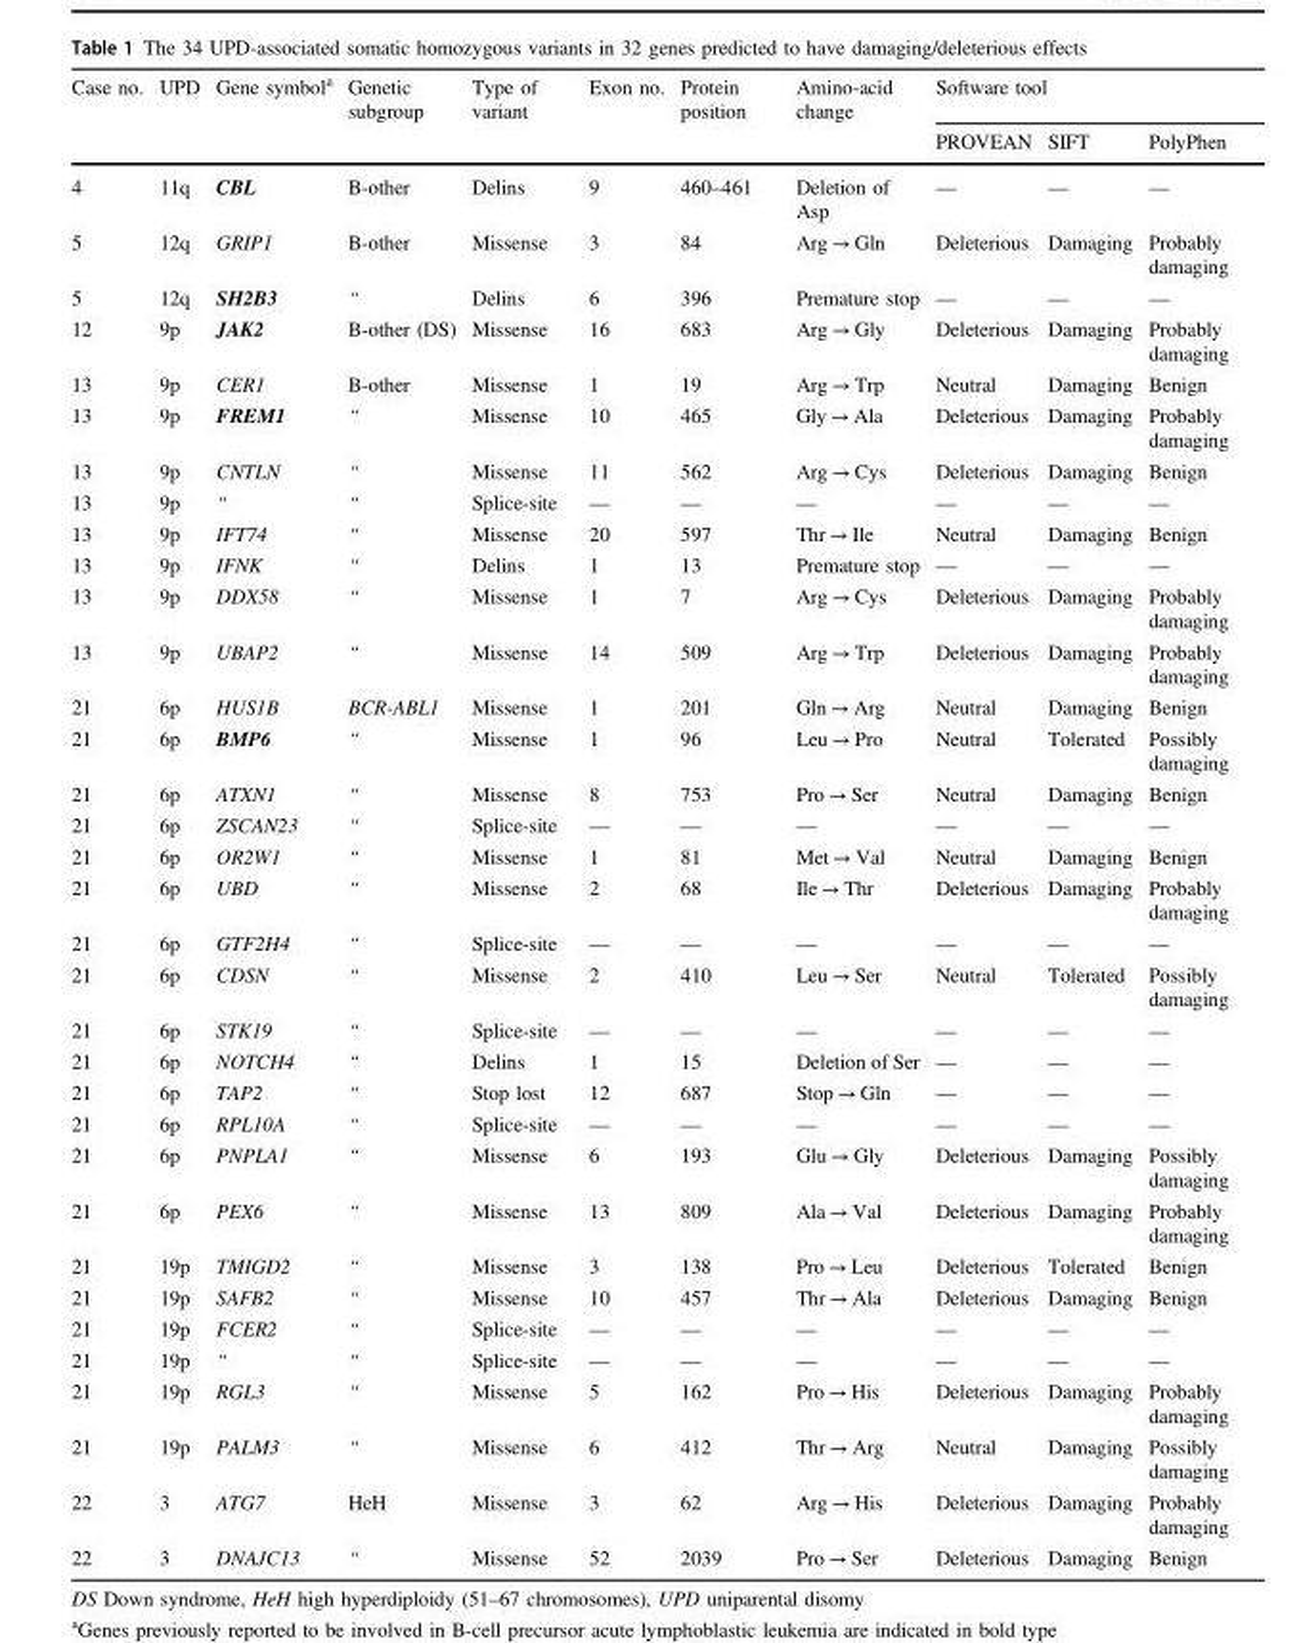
<table><thead><tr><td rowspan="2">Case no.</td><td rowspan="2">UPD</td><td rowspan="2">Gene symbol<sup>a</sup></td><td rowspan="2">Genetic subgroup</td><td rowspan="2">Type of variant</td><td rowspan="2">Exon no.</td><td rowspan="2">Protein position</td><td rowspan="2">Amino-acid change</td><td colspan="3">Software tool</td></tr><tr><td>PROVEAN</td><td>SIFT</td><td>PolyPhen</td></tr></thead><tbody><tr><td>4</td><td>11q</td><td>CBL</td><td>B-other</td><td>Delins</td><td>9</td><td>460–461</td><td>Deletion of Asp</td><td>—</td><td>—</td><td>—</td></tr><tr><td>5</td><td>12q</td><td>GRIP1</td><td>B-other</td><td>Missense</td><td>3</td><td>84</td><td>Arg → Gln</td><td>Deleterious</td><td>Damaging</td><td>Probably damaging</td></tr><tr><td>5</td><td>12q</td><td>SH2B3</td><td>“</td><td>Delins</td><td>6</td><td>396</td><td>Premature stop</td><td>—</td><td>—</td><td>—</td></tr><tr><td>12</td><td>9p</td><td>JAK2</td><td>B-other (DS)</td><td>Missense</td><td>16</td><td>683</td><td>Arg → Gly</td><td>Deleterious</td><td>Damaging</td><td>Probably damaging</td></tr><tr><td>13</td><td>9p</td><td>CER1</td><td>B-other</td><td>Missense</td><td>1</td><td>19</td><td>Arg → Trp</td><td>Neutral</td><td>Damaging</td><td>Benign</td></tr><tr><td>13</td><td>9p</td><td>FREM1</td><td>“</td><td>Missense</td><td>10</td><td>465</td><td>Gly → Ala</td><td>Deleterious</td><td>Damaging</td><td>Probably damaging</td></tr><tr><td>13</td><td>9p</td><td>CNTLN</td><td>“</td><td>Missense</td><td>11</td><td>562</td><td>Arg → Cys</td><td>Deleterious</td><td>Damaging</td><td>Benign</td></tr><tr><td>13</td><td>9p</td><td>“</td><td>“</td><td>Splice-site</td><td>—</td><td>—</td><td>—</td><td>—</td><td>—</td><td>—</td></tr><tr><td>13</td><td>9p</td><td>IFT74</td><td>“</td><td>Missense</td><td>20</td><td>597</td><td>Thr → Ile</td><td>Neutral</td><td>Damaging</td><td>Benign</td></tr><tr><td>13</td><td>9p</td><td>IFNK</td><td>“</td><td>Delins</td><td>1</td><td>13</td><td>Premature stop</td><td>—</td><td>—</td><td>—</td></tr><tr><td>13</td><td>9p</td><td>DDX58</td><td>“</td><td>Missense</td><td>1</td><td>7</td><td>Arg → Cys</td><td>Deleterious</td><td>Damaging</td><td>Probably damaging</td></tr><tr><td>13</td><td>9p</td><td>UBAP2</td><td>“</td><td>Missense</td><td>14</td><td>509</td><td>Arg → Trp</td><td>Deleterious</td><td>Damaging</td><td>Probably damaging</td></tr><tr><td>21</td><td>6p</td><td>HUS1B</td><td>BCR-ABL1</td><td>Missense</td><td>1</td><td>201</td><td>Gln → Arg</td><td>Neutral</td><td>Damaging</td><td>Benign</td></tr><tr><td>21</td><td>6p</td><td>BMP6</td><td>“</td><td>Missense</td><td>1</td><td>96</td><td>Leu → Pro</td><td>Neutral</td><td>Tolerated</td><td>Possibly damaging</td></tr><tr><td>21</td><td>6p</td><td>ATXN1</td><td>“</td><td>Missense</td><td>8</td><td>753</td><td>Pro → Ser</td><td>Neutral</td><td>Damaging</td><td>Benign</td></tr><tr><td>21</td><td>6p</td><td>ZSCAN23</td><td>“</td><td>Splice-site</td><td>—</td><td>—</td><td>—</td><td>—</td><td>—</td><td>—</td></tr><tr><td>21</td><td>6p</td><td>OR2W1</td><td>“</td><td>Missense</td><td>1</td><td>81</td><td>Met → Val</td><td>Neutral</td><td>Damaging</td><td>Benign</td></tr><tr><td>21</td><td>6p</td><td>UBD</td><td>“</td><td>Missense</td><td>2</td><td>68</td><td>Ile → Thr</td><td>Deleterious</td><td>Damaging</td><td>Probably damaging</td></tr><tr><td>21</td><td>6p</td><td>GTF2H4</td><td>“</td><td>Splice-site</td><td>—</td><td>—</td><td>—</td><td>—</td><td>—</td><td>—</td></tr><tr><td>21</td><td>6p</td><td>CDSN</td><td>“</td><td>Missense</td><td>2</td><td>410</td><td>Leu → Ser</td><td>Neutral</td><td>Tolerated</td><td>Possibly damaging</td></tr><tr><td>21</td><td>6p</td><td>STK19</td><td>“</td><td>Splice-site</td><td>—</td><td>—</td><td>—</td><td>—</td><td>—</td><td>—</td></tr><tr><td>21</td><td>6p</td><td>NOTCH4</td><td>“</td><td>Delins</td><td>1</td><td>15</td><td>Deletion of Ser</td><td>—</td><td>—</td><td>—</td></tr><tr><td>21</td><td>6p</td><td>TAP2</td><td>“</td><td>Stop lost</td><td>12</td><td>687</td><td>Stop → Gln</td><td>—</td><td>—</td><td>—</td></tr><tr><td>21</td><td>6p</td><td>RPL10A</td><td>“</td><td>Splice-site</td><td>—</td><td>—</td><td>—</td><td>—</td><td>—</td><td>—</td></tr><tr><td>21</td><td>6p</td><td>PNPLA1</td><td>“</td><td>Missense</td><td>6</td><td>193</td><td>Glu → Gly</td><td>Deleterious</td><td>Damaging</td><td>Possibly damaging</td></tr><tr><td>21</td><td>6p</td><td>PEX6</td><td>“</td><td>Missense</td><td>13</td><td>809</td><td>Ala → Val</td><td>Deleterious</td><td>Damaging</td><td>Probably damaging</td></tr><tr><td>21</td><td>19p</td><td>TMIGD2</td><td>“</td><td>Missense</td><td>3</td><td>138</td><td>Pro → Leu</td><td>Deleterious</td><td>Tolerated</td><td>Benign</td></tr><tr><td>21</td><td>19p</td><td>SAFB2</td><td>“</td><td>Missense</td><td>10</td><td>457</td><td>Thr → Ala</td><td>Deleterious</td><td>Damaging</td><td>Benign</td></tr><tr><td>21</td><td>19p</td><td>FCER2</td><td>“</td><td>Splice-site</td><td>—</td><td>—</td><td>—</td><td>—</td><td>—</td><td>—</td></tr><tr><td>21</td><td>19p</td><td>“</td><td>“</td><td>Splice-site</td><td>—</td><td>—</td><td>—</td><td>—</td><td>—</td><td>—</td></tr><tr><td>21</td><td>19p</td><td>RGL3</td><td>“</td><td>Missense</td><td>5</td><td>162</td><td>Pro → His</td><td>Deleterious</td><td>Damaging</td><td>Probably damaging</td></tr><tr><td>21</td><td>19p</td><td>PALM3</td><td>“</td><td>Missense</td><td>6</td><td>412</td><td>Thr → Arg</td><td>Neutral</td><td>Damaging</td><td>Possibly damaging</td></tr><tr><td>22</td><td>3</td><td>ATG7</td><td>HeH</td><td>Missense</td><td>3</td><td>62</td><td>Arg → His</td><td>Deleterious</td><td>Damaging</td><td>Probably damaging</td></tr><tr><td>22</td><td>3</td><td>DNAJC13</td><td>“</td><td>Missense</td><td>52</td><td>2039</td><td>Pro → Ser</td><td>Deleterious</td><td>Damaging</td><td>Benign</td></tr></tbody></table>